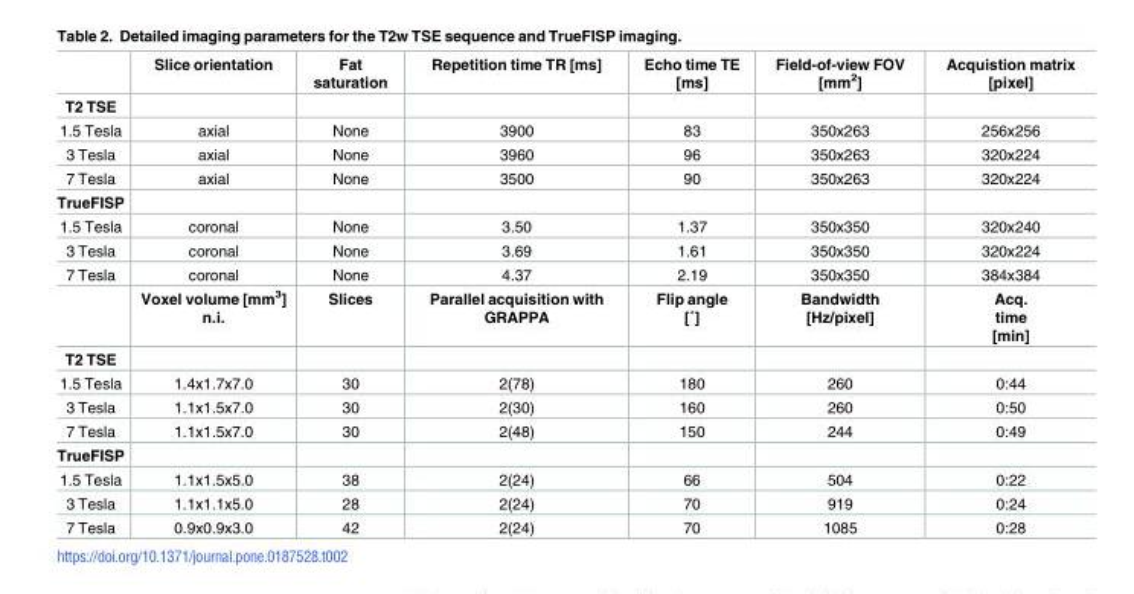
<table><thead><tr><td></td><td>Slice orientation</td><td>Fat saturation</td><td>Repetition time TR [ms]</td><td>Echo time TE [ms]</td><td>Field-of-view FOV [mm<sup>2</sup>]</td><td>Acquistion matrix [pixel]</td></tr></thead><tbody><tr><td colspan="7">T2 TSE</td></tr><tr><td>1.5 Tesla</td><td>axial</td><td>None</td><td>3900</td><td>83</td><td>350x263</td><td>256x256</td></tr><tr><td>3 Tesla</td><td>axial</td><td>None</td><td>3960</td><td>96</td><td>350x263</td><td>320x224</td></tr><tr><td>7 Tesla</td><td>axial</td><td>None</td><td>3500</td><td>90</td><td>350x263</td><td>320x224</td></tr><tr><td colspan="7">TrueFISP</td></tr><tr><td>1.5 Tesla</td><td>coronal</td><td>None</td><td>3.50</td><td>1.37</td><td>350x350</td><td>320x240</td></tr><tr><td>3 Tesla</td><td>coronal</td><td>None</td><td>3.69</td><td>1.61</td><td>350x350</td><td>320x224</td></tr><tr><td rowspan="2">7 Tesla</td><td>coronal</td><td>None</td><td>4.37</td><td>2.19</td><td>350x350</td><td>384x384</td></tr><tr><td>Voxel volume [mm<sup>3</sup>] n.i.</td><td>Slices</td><td>Parallel acquisition with GRAPPA</td><td>Flip angle [˚]</td><td>Bandwidth [Hz/pixel]</td><td>Acq. time [min]</td></tr><tr><td colspan="7">T2 TSE</td></tr><tr><td>1.5 Tesla</td><td>1.4x1.7x7.0</td><td>30</td><td>2(78)</td><td>180</td><td>260</td><td>0:44</td></tr><tr><td>3 Tesla</td><td>1.1x1.5x7.0</td><td>30</td><td>2(30)</td><td>160</td><td>260</td><td>0:50</td></tr><tr><td>7 Tesla</td><td>1.1x1.5x7.0</td><td>30</td><td>2(48)</td><td>150</td><td>244</td><td>0:49</td></tr><tr><td colspan="7">TrueFISP</td></tr><tr><td>1.5 Tesla</td><td>1.1x1.5x5.0</td><td>38</td><td>2(24)</td><td>66</td><td>504</td><td>0:22</td></tr><tr><td>3 Tesla</td><td>1.1x1.1x5.0</td><td>28</td><td>2(24)</td><td>70</td><td>919</td><td>0:24</td></tr><tr><td>7 Tesla</td><td>0.9x0.9x3.0</td><td>42</td><td>2(24)</td><td>70</td><td>1085</td><td>0:28</td></tr></tbody></table>